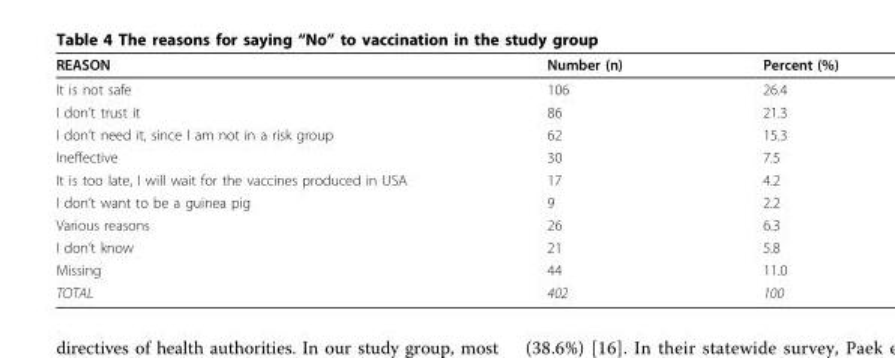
<table><thead><tr><td>REASON</td><td>Number (n)</td><td>Percent (%)</td></tr></thead><tbody><tr><td>It is not safe</td><td>106</td><td>26.4</td></tr><tr><td>I don’t trust it</td><td>86</td><td>21.3</td></tr><tr><td>I don’t need it, since I am not in a risk group</td><td>62</td><td>15.3</td></tr><tr><td>Ineffective</td><td>30</td><td>7.5</td></tr><tr><td>It is too late, I will wait for the vaccines produced in USA</td><td>17</td><td>4.2</td></tr><tr><td>I don’t want to be a guinea pig</td><td>9</td><td>2.2</td></tr><tr><td>Various reasons</td><td>26</td><td>6.3</td></tr><tr><td>I don’t know</td><td>21</td><td>5.8</td></tr><tr><td>Missing</td><td>44</td><td>11.0</td></tr><tr><td>TOTAL</td><td>402</td><td>100</td></tr></tbody></table>